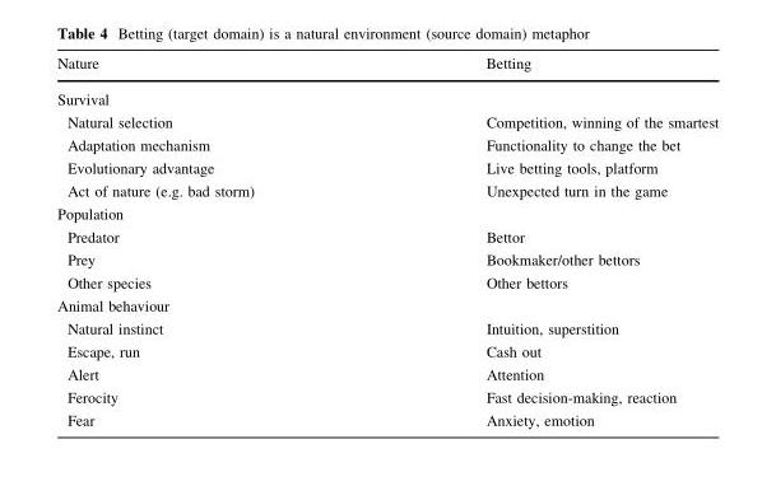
<table><thead><tr><td>Nature</td><td>Betting</td></tr></thead><tbody><tr><td colspan="2">Survival</td></tr><tr><td>Natural selection</td><td>Competition, winning of the smartest</td></tr><tr><td>Adaptation mechanism</td><td>Functionality to change the bet</td></tr><tr><td>Evolutionary advantage</td><td>Live betting tools, platform</td></tr><tr><td>Act of nature (e.g. bad storm)</td><td>Unexpected turn in the game</td></tr><tr><td colspan="2">Population</td></tr><tr><td>Predator</td><td>Bettor</td></tr><tr><td>Prey</td><td>Bookmaker/other bettors</td></tr><tr><td>Other species</td><td>Other bettors</td></tr><tr><td colspan="2">Animal behaviour</td></tr><tr><td>Natural instinct</td><td>Intuition, superstition</td></tr><tr><td>Escape, run</td><td>Cash out</td></tr><tr><td>Alert</td><td>Attention</td></tr><tr><td>Ferocity</td><td>Fast decision-making, reaction</td></tr><tr><td>Fear</td><td>Anxiety, emotion</td></tr></tbody></table>